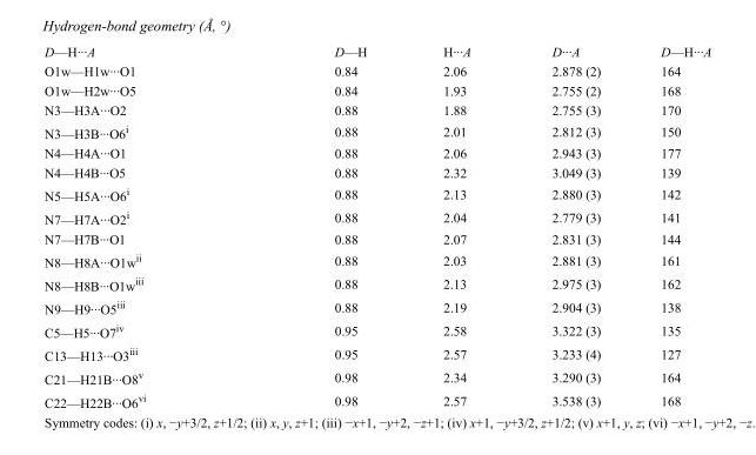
<table><tbody><tr><td>D—H···A</td><td>D—H</td><td>H···A</td><td>D···A</td><td>D—H···A</td></tr><tr><td>O1w—H1w···O1</td><td>0.84</td><td>2.06</td><td>2.878 (2)</td><td>164</td></tr><tr><td>O1w—H2w···O5</td><td>0.84</td><td>1.93</td><td>2.755 (2)</td><td>168</td></tr><tr><td>N3—H3A···O2</td><td>0.88</td><td>1.88</td><td>2.755 (3)</td><td>170</td></tr><tr><td>N3—H3B···O6<sup>i</sup></td><td>0.88</td><td>2.01</td><td>2.812 (3)</td><td>150</td></tr><tr><td>N4—H4A···O1</td><td>0.88</td><td>2.06</td><td>2.943 (3)</td><td>177</td></tr><tr><td>N4—H4B···O5</td><td>0.88</td><td>2.32</td><td>3.049 (3)</td><td>139</td></tr><tr><td>N5—H5A···O6<sup>i</sup></td><td>0.88</td><td>2.13</td><td>2.880 (3)</td><td>142</td></tr><tr><td>N7—H7A···O2<sup>i</sup></td><td>0.88</td><td>2.04</td><td>2.779 (3)</td><td>141</td></tr><tr><td>N7—H7B···O1</td><td>0.88</td><td>2.07</td><td>2.831 (3)</td><td>144</td></tr><tr><td>N8—H8A···O1w<sup>ii</sup></td><td>0.88</td><td>2.03</td><td>2.881 (3)</td><td>161</td></tr><tr><td>N8—H8B···O1w<sup>iii</sup></td><td>0.88</td><td>2.13</td><td>2.975 (3)</td><td>162</td></tr><tr><td>N9—H9···O5<sup>iii</sup></td><td>0.88</td><td>2.19</td><td>2.904 (3)</td><td>138</td></tr><tr><td>C5—H5···O7<sup>iv</sup></td><td>0.95</td><td>2.58</td><td>3.322 (3)</td><td>135</td></tr><tr><td>C13—H13···O3<sup>iii</sup></td><td>0.95</td><td>2.57</td><td>3.233 (4)</td><td>127</td></tr><tr><td>C21—H21B···O8<sup>v</sup></td><td>0.98</td><td>2.34</td><td>3.290 (3)</td><td>164</td></tr><tr><td>C22—H22B···O6<sup>vi</sup></td><td>0.98</td><td>2.57</td><td>3.538 (3)</td><td>168</td></tr></tbody></table>